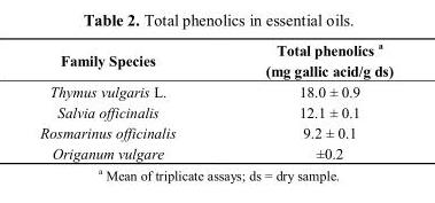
<table><thead><tr><td>Family Species</td><td>Total phenolics <sup>a</sup> (mg gallic acid/g ds)</td></tr></thead><tbody><tr><td>Thymus vulgaris L.</td><td>18.0 ± 0.9</td></tr><tr><td>Salvia officinalis</td><td>12.1 ± 0.1</td></tr><tr><td>Rosmarinus officinalis</td><td>9.2 ± 0.1</td></tr><tr><td>Origanum vulgare</td><td>±0.2</td></tr></tbody></table>